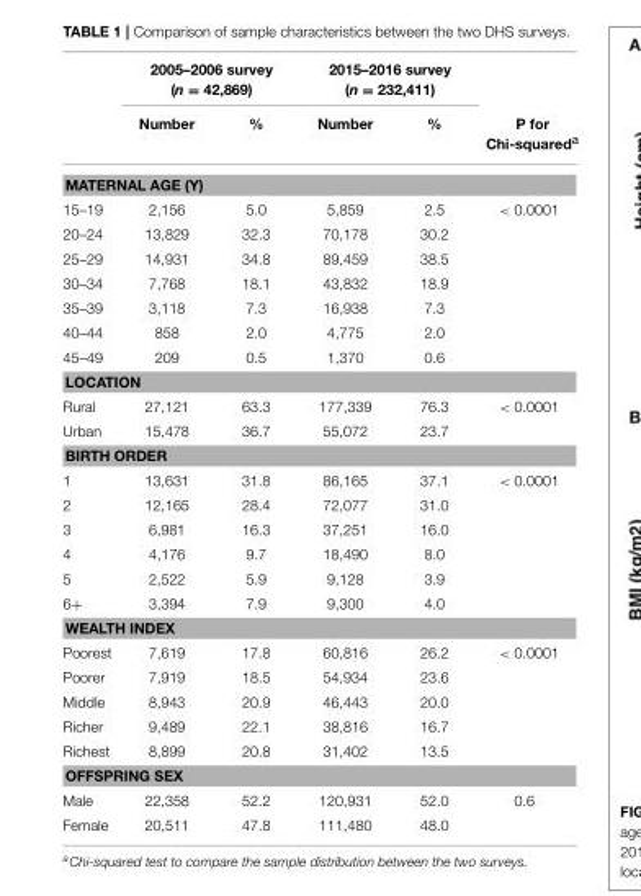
<table><thead><tr><td rowspan="2"></td><td colspan="2">2005–2006 survey (n = 42,869)</td><td colspan="2">2015–2016 survey (n = 232,411)</td><td rowspan="2">P for Chi-squared<sup>a</sup></td></tr><tr><td>Number</td><td>%</td><td>Number</td><td>%</td></tr></thead><tbody><tr><td colspan="6">MATERNAL AGE (Y)</td></tr><tr><td>15–19</td><td>2,156</td><td>5.0</td><td>5,859</td><td>2.5</td><td>&lt; 0.0001</td></tr><tr><td>20–24</td><td>13,829</td><td>32.3</td><td>70,178</td><td>30.2</td><td></td></tr><tr><td>25–29</td><td>14,931</td><td>34.8</td><td>89,459</td><td>38.5</td><td></td></tr><tr><td>30–34</td><td>7,768</td><td>18.1</td><td>43,832</td><td>18.9</td><td></td></tr><tr><td>35–39</td><td>3,118</td><td>7.3</td><td>16,938</td><td>7.3</td><td></td></tr><tr><td>40–44</td><td>858</td><td>2.0</td><td>4,775</td><td>2.0</td><td></td></tr><tr><td>45–49</td><td>209</td><td>0.5</td><td>1,370</td><td>0.6</td><td></td></tr><tr><td colspan="6">LOCATION</td></tr><tr><td>Rural</td><td>27,121</td><td>63.3</td><td>177,339</td><td>76.3</td><td>&lt; 0.0001</td></tr><tr><td>Urban</td><td>15,478</td><td>36.7</td><td>55,072</td><td>23.7</td><td></td></tr><tr><td colspan="6">BIRTH ORDER</td></tr><tr><td>1</td><td>13,631</td><td>31.8</td><td>86,165</td><td>37.1</td><td>&lt; 0.0001</td></tr><tr><td>2</td><td>12,165</td><td>28.4</td><td>72,077</td><td>31.0</td><td></td></tr><tr><td>3</td><td>6,981</td><td>16.3</td><td>37,251</td><td>16.0</td><td></td></tr><tr><td>4</td><td>4,176</td><td>9.7</td><td>18,490</td><td>8.0</td><td></td></tr><tr><td>5</td><td>2,522</td><td>5.9</td><td>9,128</td><td>3.9</td><td></td></tr><tr><td>6+</td><td>3,394</td><td>7.9</td><td>9,300</td><td>4.0</td><td></td></tr><tr><td colspan="6">WEALTH INDEX</td></tr><tr><td>Poorest</td><td>7,619</td><td>17.8</td><td>60,816</td><td>26.2</td><td>&lt; 0.0001</td></tr><tr><td>Poorer</td><td>7,919</td><td>18.5</td><td>54,934</td><td>23.6</td><td></td></tr><tr><td>Middle</td><td>8,943</td><td>20.9</td><td>46,443</td><td>20.0</td><td></td></tr><tr><td>Richer</td><td>9,489</td><td>22.1</td><td>38,816</td><td>16.7</td><td></td></tr><tr><td>Richest</td><td>8,899</td><td>20.8</td><td>31,402</td><td>13.5</td><td></td></tr><tr><td colspan="6">OFFSPRING SEX</td></tr><tr><td>Male</td><td>22,358</td><td>52.2</td><td>120,931</td><td>52.0</td><td>0.6</td></tr><tr><td>Female</td><td>20,511</td><td>47.8</td><td>111,480</td><td>48.0</td><td></td></tr></tbody></table>